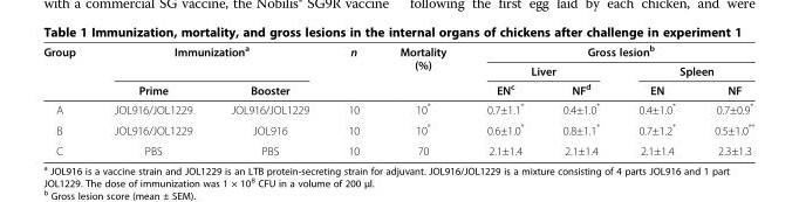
<table><thead><tr><td rowspan="3">Group</td><td rowspan="2" colspan="2">Immunization<sup>a</sup></td><td rowspan="3">n</td><td rowspan="3">Mortality (%)</td><td colspan="4">Gross lesion<sup>b</sup></td></tr><tr><td colspan="2">Liver</td><td colspan="2">Spleen</td></tr><tr><td>Prime</td><td>Booster</td><td>EN<sup>c</sup></td><td>NF<sup>d</sup></td><td>EN</td><td>NF</td></tr></thead><tbody><tr><td>A</td><td>JOL916/JOL1229</td><td>JOL916/JOL1229</td><td>10</td><td>10*</td><td>0.7±1.1*</td><td>0.4±1.0*</td><td>0.4±1.0*</td><td>0.7±0.9*</td></tr><tr><td>B</td><td>JOL916/JOL1229</td><td>JOL916</td><td>10</td><td>10*</td><td>0.6±1.0*</td><td>0.8±1.1*</td><td>0.7±1.2*</td><td>0.5±1.0**</td></tr><tr><td>C</td><td>PBS</td><td>PBS</td><td>10</td><td>70</td><td>2.1±1.4</td><td>2.1±1.4</td><td>2.1±1.4</td><td>2.3±1.3</td></tr></tbody></table>